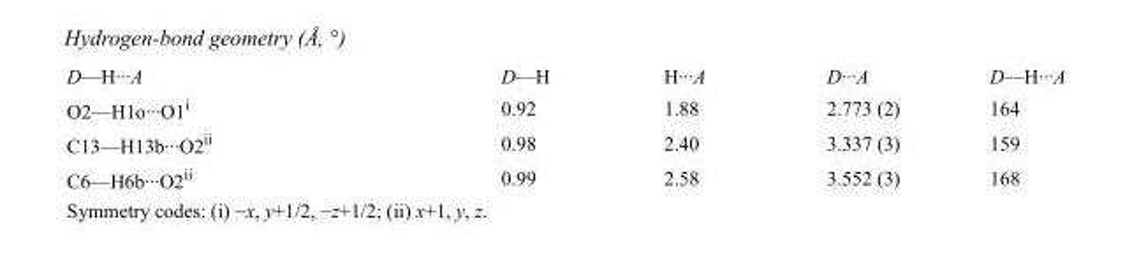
<table><tbody><tr><td>D—H···A</td><td>D—H</td><td>H···A</td><td>D···A</td><td>D—H···A</td></tr><tr><td>O2—H1o···O1<sup>i</sup></td><td>0.92</td><td>1.88</td><td>2.773 (2)</td><td>164</td></tr><tr><td>C13—H13b···O2<sup>ii</sup></td><td>0.98</td><td>2.40</td><td>3.337 (3)</td><td>159</td></tr><tr><td>C6—H6b···O2<sup>ii</sup></td><td>0.99</td><td>2.58</td><td>3.552 (3)</td><td>168</td></tr></tbody></table>